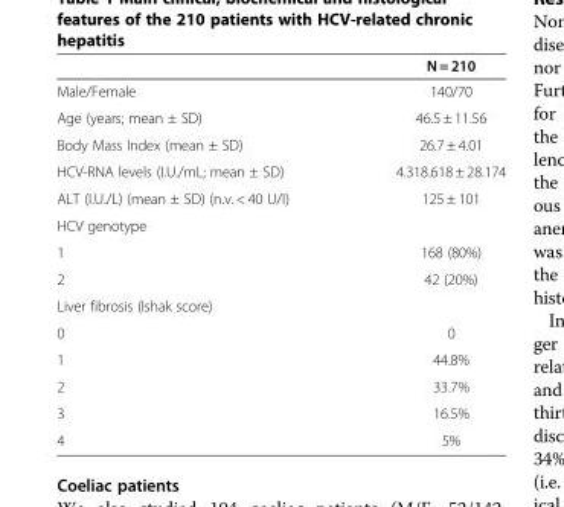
<table><thead><tr><td></td><td>N = 210</td></tr></thead><tbody><tr><td>Male/Female</td><td>140/70</td></tr><tr><td>Age (years; mean ± SD)</td><td>46.5 ± 11.56</td></tr><tr><td>Body Mass Index (mean ± SD)</td><td>26.7 ± 4.01</td></tr><tr><td>HCV-RNA levels (I.U./mL; mean ± SD)</td><td>4.318.618 ± 28.174</td></tr><tr><td>ALT (I.U./L) (mean ± SD) (n.v. &lt; 40 U/I)</td><td>125 ± 101</td></tr><tr><td colspan="2">HCV genotype</td></tr><tr><td>1</td><td>168 (80%)</td></tr><tr><td>2</td><td>42 (20%)</td></tr><tr><td colspan="2">Liver fibrosis (Ishak score)</td></tr><tr><td>0</td><td>0</td></tr><tr><td>1</td><td>44.8%</td></tr><tr><td>2</td><td>33.7%</td></tr><tr><td>3</td><td>16.5%</td></tr><tr><td>4</td><td>5%</td></tr></tbody></table>